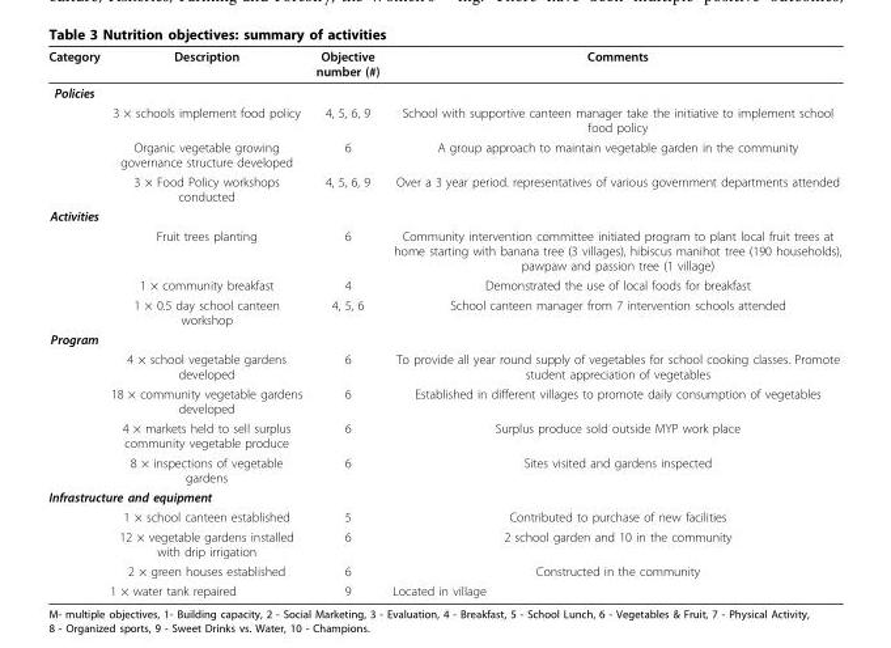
<table><thead><tr><td>Category</td><td>Description</td><td>Objective number (#)</td><td>Comments</td></tr></thead><tbody><tr><td colspan="4">Policies</td></tr><tr><td></td><td>3 × schools implement food policy</td><td>4, 5, 6, 9</td><td>School with supportive canteen manager take the initiative to implement school food policy</td></tr><tr><td></td><td>Organic vegetable growing governance structure developed</td><td>6</td><td>A group approach to maintain vegetable garden in the community</td></tr><tr><td></td><td>3 × Food Policy workshops conducted</td><td>4, 5, 6, 9</td><td>Over a 3 year period. representatives of various government departments attended</td></tr><tr><td colspan="4">Activities</td></tr><tr><td></td><td>Fruit trees planting</td><td>6</td><td>Community intervention committee initiated program to plant local fruit trees at home starting with banana tree (3 villages), hibiscus manihot tree (190 households), pawpaw and passion tree (1 village)</td></tr><tr><td></td><td>1 × community breakfast</td><td>4</td><td>Demonstrated the use of local foods for breakfast</td></tr><tr><td></td><td>1 × 0.5 day school canteen workshop</td><td>4, 5, 6</td><td>School canteen manager from 7 intervention schools attended</td></tr><tr><td colspan="4">Program</td></tr><tr><td></td><td>4 × school vegetable gardens developed</td><td>6</td><td>To provide all year round supply of vegetables for school cooking classes. Promote student appreciation of vegetables</td></tr><tr><td></td><td>18 × community vegetable gardens developed</td><td>6</td><td>Established in different villages to promote daily consumption of vegetables</td></tr><tr><td></td><td>4 × markets held to sell surplus community vegetable produce</td><td>6</td><td>Surplus produce sold outside MYP work place</td></tr><tr><td></td><td>8 × inspections of vegetable gardens</td><td>6</td><td>Sites visited and gardens inspected</td></tr><tr><td colspan="4">Infrastructure and equipment</td></tr><tr><td></td><td>1 × school canteen established</td><td>5</td><td>Contributed to purchase of new facilities</td></tr><tr><td></td><td>12 × vegetable gardens installed with drip irrigation</td><td>6</td><td>2 school garden and 10 in the community</td></tr><tr><td></td><td>2 × green houses established</td><td>6</td><td>Constructed in the community</td></tr><tr><td></td><td>1 × water tank repaired</td><td>9</td><td>Located in village</td></tr></tbody></table>